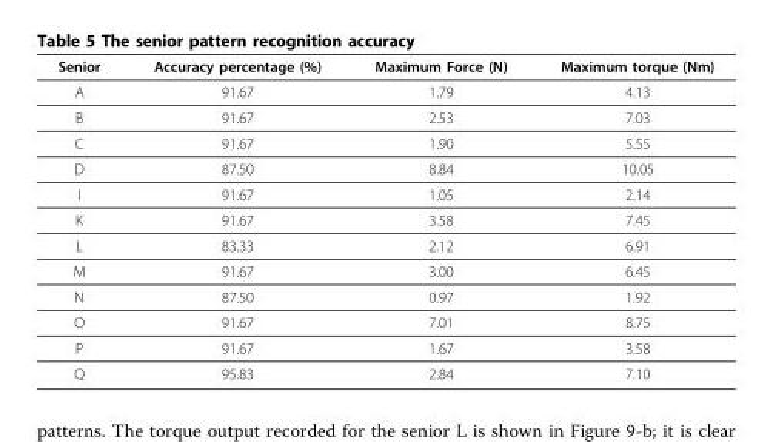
<table><thead><tr><td>Senior</td><td>Accuracy percentage (%)</td><td>Maximum Force (N)</td><td>Maximum torque (Nm)</td></tr></thead><tbody><tr><td>A</td><td>91.67</td><td>1.79</td><td>4.13</td></tr><tr><td>B</td><td>91.67</td><td>2.53</td><td>7.03</td></tr><tr><td>C</td><td>91.67</td><td>1.90</td><td>5.55</td></tr><tr><td>D</td><td>87.50</td><td>8.84</td><td>10.05</td></tr><tr><td>I</td><td>91.67</td><td>1.05</td><td>2.14</td></tr><tr><td>K</td><td>91.67</td><td>3.58</td><td>7.45</td></tr><tr><td>L</td><td>83.33</td><td>2.12</td><td>6.91</td></tr><tr><td>M</td><td>91.67</td><td>3.00</td><td>6.45</td></tr><tr><td>N</td><td>87.50</td><td>0.97</td><td>1.92</td></tr><tr><td>O</td><td>91.67</td><td>7.01</td><td>8.75</td></tr><tr><td>P</td><td>91.67</td><td>1.67</td><td>3.58</td></tr><tr><td>Q</td><td>95.83</td><td>2.84</td><td>7.10</td></tr></tbody></table>